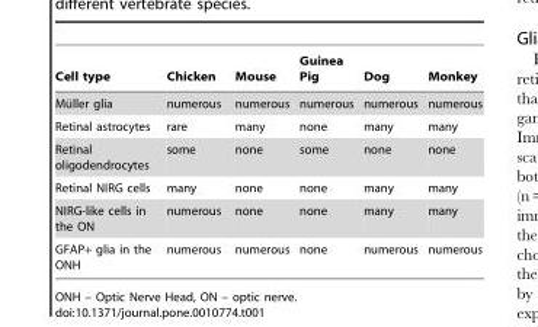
<table><thead><tr><td>Cell type</td><td>Chicken</td><td>Mouse</td><td>Guinea Pig</td><td>Dog</td><td>Monkey</td></tr></thead><tbody><tr><td>Mu¨ller glia</td><td>numerous</td><td>numerous</td><td>numerous</td><td>numerous</td><td>numerous</td></tr><tr><td>Retinal astrocytes</td><td>rare</td><td>many</td><td>none</td><td>many</td><td>many</td></tr><tr><td>Retinal oligodendrocytes</td><td>some</td><td>none</td><td>some</td><td>none</td><td>none</td></tr><tr><td>Retinal NIRG cells</td><td>many</td><td>none</td><td>none</td><td>many</td><td>many</td></tr><tr><td>NIRG-like cells in the ON</td><td>numerous</td><td>none</td><td>none</td><td>many</td><td>many</td></tr><tr><td>GFAP+ glia in the ONH</td><td>numerous</td><td>numerous</td><td>none</td><td>numerous</td><td>numerous</td></tr></tbody></table>